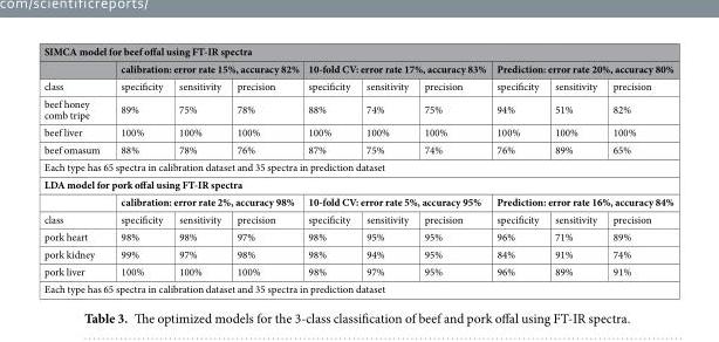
<table><thead><tr><td colspan="10">SIMCA model for beef offal using FT-IR spectra</td></tr><tr><td rowspan="2">class</td><td colspan="3">calibration: error rate 15%, accuracy 82%</td><td colspan="3">10-fold CV: error rate 17%, accuracy 83%</td><td colspan="3">Prediction: error rate 20%, accuracy 80%</td></tr><tr><td>specificity</td><td>sensitivity</td><td>precision</td><td>specificity</td><td>sensitivity</td><td>precision</td><td>specificity</td><td>sensitivity</td><td>precision</td></tr></thead><tbody><tr><td>beef honey comb tripe</td><td>89%</td><td>75%</td><td>78%</td><td>88%</td><td>74%</td><td>75%</td><td>94%</td><td>51%</td><td>82%</td></tr><tr><td>beef liver</td><td>100%</td><td>100%</td><td>100%</td><td>100%</td><td>100%</td><td>100%</td><td>100%</td><td>100%</td><td>100%</td></tr><tr><td>beef omasum</td><td>88%</td><td>78%</td><td>76%</td><td>87%</td><td>75%</td><td>74%</td><td>76%</td><td>89%</td><td>65%</td></tr><tr><td colspan="10">Each type has 65 spectra in calibration dataset and 35 spectra in prediction dataset</td></tr><tr><td colspan="10">LDA model for pork offal using FT-IR spectra</td></tr><tr><td></td><td colspan="3">calibration: error rate 2%, accuracy 98%</td><td colspan="3">10-fold CV: error rate 5%, accuracy 95%</td><td colspan="3">Prediction: error rate 16%, accuracy 84%</td></tr><tr><td>class</td><td>specificity</td><td>sensitivity</td><td>precision</td><td>specificity</td><td>sensitivity</td><td>precision</td><td>specificity</td><td>sensitivity</td><td>precision</td></tr><tr><td>pork heart</td><td>98%</td><td>98%</td><td>97%</td><td>98%</td><td>95%</td><td>95%</td><td>96%</td><td>71%</td><td>89%</td></tr><tr><td>pork kidney</td><td>99%</td><td>97%</td><td>98%</td><td>98%</td><td>94%</td><td>95%</td><td>84%</td><td>91%</td><td>74%</td></tr><tr><td>pork liver</td><td>100%</td><td>100%</td><td>100%</td><td>98%</td><td>97%</td><td>95%</td><td>96%</td><td>89%</td><td>91%</td></tr><tr><td colspan="10">Each type has 65 spectra in calibration dataset and 35 spectra in prediction dataset</td></tr></tbody></table>